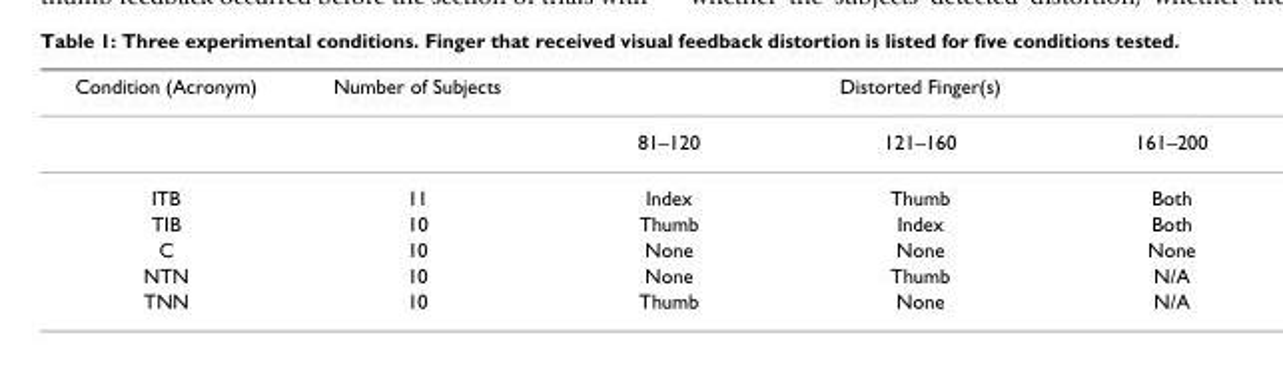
<table><thead><tr><td rowspan="2">Condition (Acronym)</td><td rowspan="2">Number of Subjects</td><td colspan="3">Distorted Finger(s)</td></tr><tr><td>81–120</td><td>121–160</td><td>161–200</td></tr></thead><tbody><tr><td>ITB</td><td>11</td><td>Index</td><td>Thumb</td><td>Both</td></tr><tr><td>TIB</td><td>10</td><td>Thumb</td><td>Index</td><td>Both</td></tr><tr><td>C</td><td>10</td><td>None</td><td>None</td><td>None</td></tr><tr><td>NTN</td><td>10</td><td>None</td><td>Thumb</td><td>N/A</td></tr><tr><td>TNN</td><td>10</td><td>Thumb</td><td>None</td><td>N/A</td></tr></tbody></table>